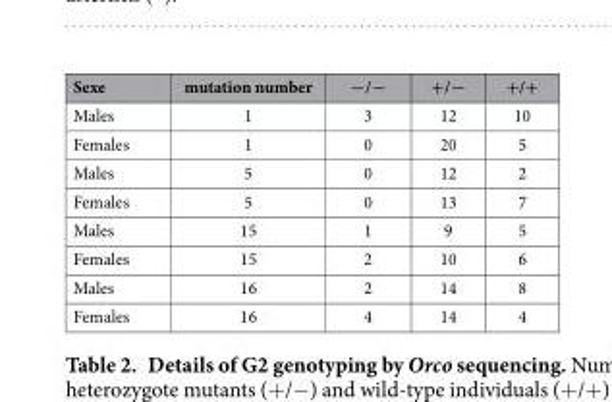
<table><thead><tr><td>Sexe</td><td>mutation number</td><td>−/−</td><td>+/−</td><td>+/+</td></tr></thead><tbody><tr><td>Males</td><td>1</td><td>3</td><td>12</td><td>10</td></tr><tr><td>Females</td><td>1</td><td>0</td><td>20</td><td>5</td></tr><tr><td>Males</td><td>5</td><td>0</td><td>12</td><td>2</td></tr><tr><td>Females</td><td>5</td><td>0</td><td>13</td><td>7</td></tr><tr><td>Males</td><td>15</td><td>1</td><td>9</td><td>5</td></tr><tr><td>Females</td><td>15</td><td>2</td><td>10</td><td>6</td></tr><tr><td>Males</td><td>16</td><td>2</td><td>14</td><td>8</td></tr><tr><td>Females</td><td>16</td><td>4</td><td>14</td><td>4</td></tr></tbody></table>